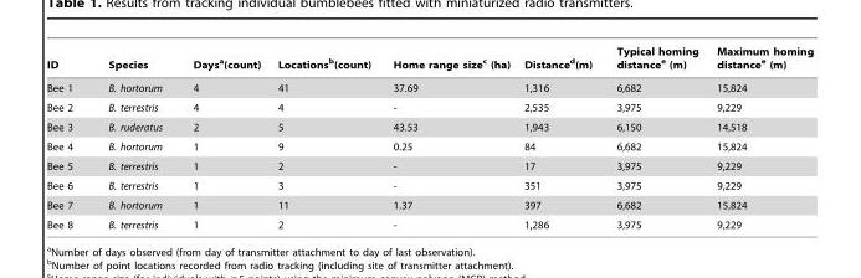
<table><thead><tr><td>ID</td><td>Species</td><td>Days<sup>a</sup>(count)</td><td>Locations<sup>b</sup>(count)</td><td>Home range size<sup>c</sup> (ha)</td><td>Distance<sup>d</sup>(m)</td><td>Typical homing distance<sup>e</sup> (m)</td><td>Maximum homing distance<sup>e</sup> (m)</td></tr></thead><tbody><tr><td>Bee 1</td><td>B. hortorum</td><td>4</td><td>41</td><td>37.69</td><td>1,316</td><td>6,682</td><td>15,824</td></tr><tr><td>Bee 2</td><td>B. terrestris</td><td>4</td><td>4</td><td>-</td><td>2,535</td><td>3,975</td><td>9,229</td></tr><tr><td>Bee 3</td><td>B. ruderatus</td><td>2</td><td>5</td><td>43.53</td><td>1,943</td><td>6,150</td><td>14,518</td></tr><tr><td>Bee 4</td><td>B. hortorum</td><td>1</td><td>9</td><td>0.25</td><td>84</td><td>6,682</td><td>15,824</td></tr><tr><td>Bee 5</td><td>B. terrestris</td><td>1</td><td>2</td><td>-</td><td>17</td><td>3,975</td><td>9,229</td></tr><tr><td>Bee 6</td><td>B. terrestris</td><td>1</td><td>3</td><td>-</td><td>351</td><td>3,975</td><td>9,229</td></tr><tr><td>Bee 7</td><td>B. hortorum</td><td>1</td><td>11</td><td>1.37</td><td>397</td><td>6,682</td><td>15,824</td></tr><tr><td>Bee 8</td><td>B. terrestris</td><td>1</td><td>2</td><td>-</td><td>1,286</td><td>3,975</td><td>9,229</td></tr></tbody></table>